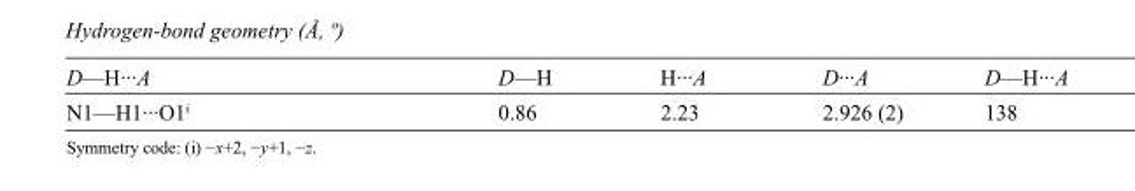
<table><tbody><tr><td>D—H···A</td><td>D—H</td><td>H···A</td><td>D···A</td><td>D—H···A</td></tr><tr><td>N1—H1···O1<sup>i</sup></td><td>0.86</td><td>2.23</td><td>2.926 (2)</td><td>138</td></tr></tbody></table>